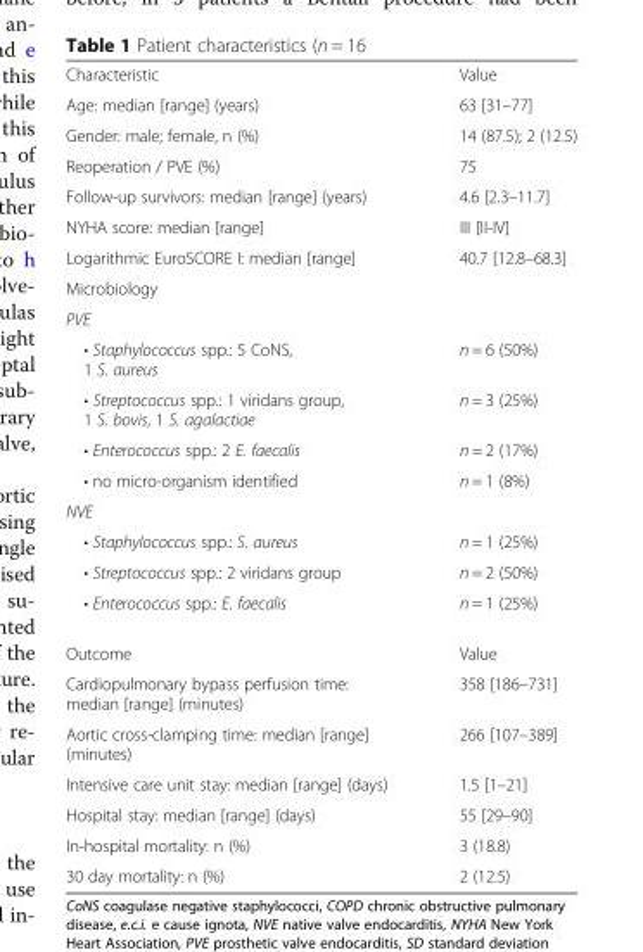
<table><tbody><tr><td>Characteristic</td><td>Value</td></tr><tr><td>Age: median [range] (years)</td><td>63 [31–77]</td></tr><tr><td>Gender: male; female, n (%)</td><td>14 (87.5); 2 (12.5)</td></tr><tr><td>Reoperation / PVE (%)</td><td>75</td></tr><tr><td>Follow-up survivors: median [range] (years)</td><td>4.6 [2.3–11.7]</td></tr><tr><td>NYHA score: median [range]</td><td>III [II-IV]</td></tr><tr><td>Logarithmic EuroSCORE I: median [range]</td><td>40.7 [12.8–68.3]</td></tr><tr><td colspan="2">Microbiology</td></tr><tr><td colspan="2">PVE</td></tr><tr><td>• Staphylococcus spp.: 5 CoNS, 1 S. aureus</td><td>n = 6 (50%)</td></tr><tr><td>• Streptococcus spp.: 1 viridans group, 1 S. bovis, 1 S. agalactiae</td><td>n = 3 (25%)</td></tr><tr><td>• Enterococcus spp.: 2 E. faecalis</td><td>n = 2 (17%)</td></tr><tr><td>• no micro-organism identified</td><td>n = 1 (8%)</td></tr><tr><td colspan="2">NVE</td></tr><tr><td>• Staphylococcus spp.: S. aureus</td><td>n = 1 (25%)</td></tr><tr><td>• Streptococcus spp.: 2 viridans group</td><td>n = 2 (50%)</td></tr><tr><td>• Enterococcus spp.: E. faecalis</td><td>n = 1 (25%)</td></tr><tr><td>Outcome</td><td>Value</td></tr><tr><td>Cardiopulmonary bypass perfusion time: median [range] (minutes)</td><td>358 [186–731]</td></tr><tr><td>Aortic cross-clamping time: median [range] (minutes)</td><td>266 [107–389]</td></tr><tr><td>Intensive care unit stay: median [range] (days)</td><td>1.5 [1–21]</td></tr><tr><td>Hospital stay: median [range] (days)</td><td>55 [29–90]</td></tr><tr><td>In-hospital mortality: n (%)</td><td>3 (18.8)</td></tr><tr><td>30 day mortality: n (%)</td><td>2 (12.5)</td></tr></tbody></table>